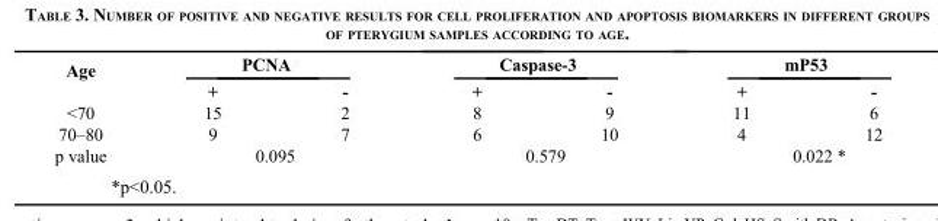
<table><thead><tr><td rowspan="2">Age</td><td colspan="2">PCNA</td><td colspan="2">Caspase-3</td><td colspan="2">mP53</td></tr><tr><td>+</td><td>-</td><td>+</td><td>-</td><td>+</td><td>-</td></tr></thead><tbody><tr><td>&lt;70</td><td>15</td><td>2</td><td>8</td><td>9</td><td>11</td><td>6</td></tr><tr><td>70–80</td><td>9</td><td>7</td><td>6</td><td>10</td><td>4</td><td>12</td></tr><tr><td>p value</td><td colspan="2">0.095</td><td colspan="2">0.579</td><td colspan="2">0.022 *</td></tr></tbody></table>